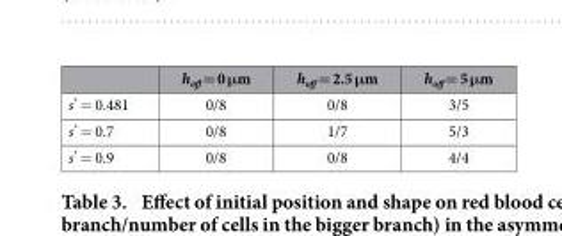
<table><thead><tr><td></td><td>h<sub>off</sub> = 0 μm</td><td>h<sub>off</sub> = 2.5 μm</td><td>h<sub>off</sub> = 5 μm</td></tr></thead><tbody><tr><td>s* = 0.481</td><td>0/8</td><td>0/8</td><td>3/5</td></tr><tr><td>s* = 0.7</td><td>0/8</td><td>1/7</td><td>5/3</td></tr><tr><td>s* = 0.9</td><td>0/8</td><td>0/8</td><td>4/4</td></tr></tbody></table>